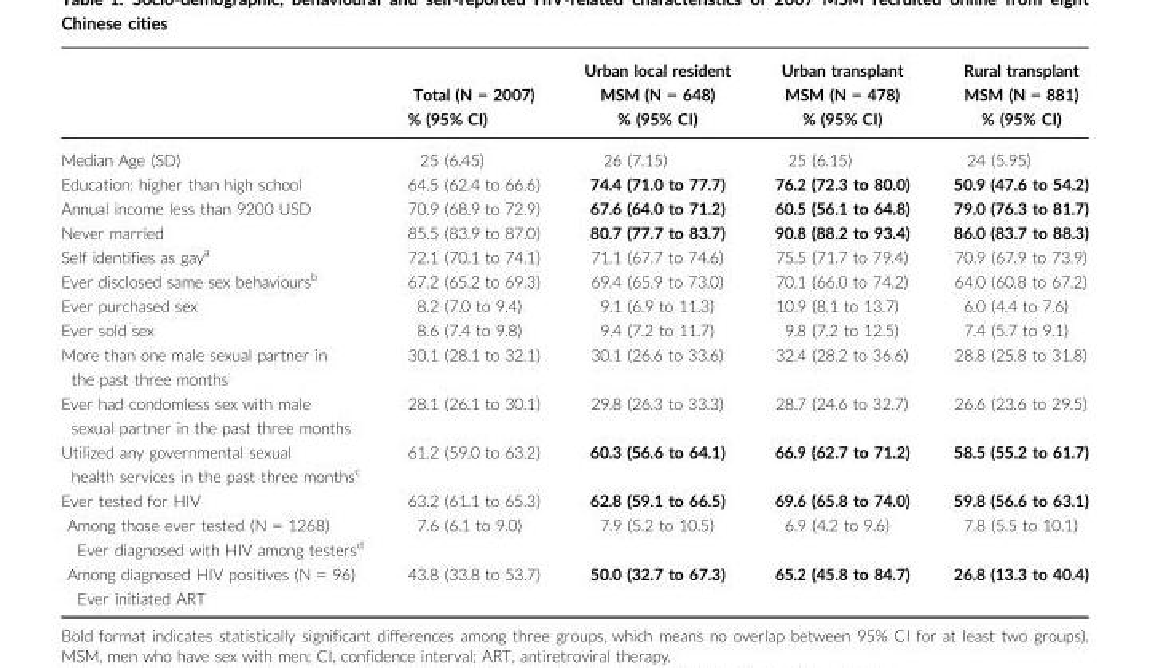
<table><thead><tr><td rowspan="2"></td><td rowspan="2">Total (N = 2007) % (95% CI)</td><td rowspan="2">Urban local resident MSM (N = 648) % (95% CI)</td><td rowspan="2">Urban transplant MSM (N = 478) % (95% CI)</td><td rowspan="2">Rural transplant MSM (N = 881) % (95% CI)</td></tr><tr></tr></thead><tbody><tr><td>Median Age (SD)</td><td>25 (6.45)</td><td>26 (7.15)</td><td>25 (6.15)</td><td>24 (5.95)</td></tr><tr><td>Education: higher than high school</td><td>64.5 (62.4 to 66.6)</td><td>74.4 (71.0 to 77.7)</td><td>76.2 (72.3 to 80.0)</td><td>50.9 (47.6 to 54.2)</td></tr><tr><td>Annual income less than 9200 USD</td><td>70.9 (68.9 to 72.9)</td><td>67.6 (64.0 to 71.2)</td><td>60.5 (56.1 to 64.8)</td><td>79.0 (76.3 to 81.7)</td></tr><tr><td>Never married</td><td>85.5 (83.9 to 87.0)</td><td>80.7 (77.7 to 83.7)</td><td>90.8 (88.2 to 93.4)</td><td>86.0 (83.7 to 88.3)</td></tr><tr><td>Self identifies as gay<sup>a</sup></td><td>72.1 (70.1 to 74.1)</td><td>71.1 (67.7 to 74.6)</td><td>75.5 (71.7 to 79.4)</td><td>70.9 (67.9 to 73.9)</td></tr><tr><td>Ever disclosed same sex behaviours<sup>b</sup></td><td>67.2 (65.2 to 69.3)</td><td>69.4 (65.9 to 73.0)</td><td>70.1 (66.0 to 74.2)</td><td>64.0 (60.8 to 67.2)</td></tr><tr><td>Ever purchased sex</td><td>8.2 (7.0 to 9.4)</td><td>9.1 (6.9 to 11.3)</td><td>10.9 (8.1 to 13.7)</td><td>6.0 (4.4 to 7.6)</td></tr><tr><td>Ever sold sex</td><td>8.6 (7.4 to 9.8)</td><td>9.4 (7.2 to 11.7)</td><td>9.8 (7.2 to 12.5)</td><td>7.4 (5.7 to 9.1)</td></tr><tr><td>More than one male sexual partner in the past three months</td><td>30.1 (28.1 to 32.1)</td><td>30.1 (26.6 to 33.6)</td><td>32.4 (28.2 to 36.6)</td><td>28.8 (25.8 to 31.8)</td></tr><tr><td>Ever had condomless sex with male sexual partner in the past three months</td><td>28.1 (26.1 to 30.1)</td><td>29.8 (26.3 to 33.3)</td><td>28.7 (24.6 to 32.7)</td><td>26.6 (23.6 to 29.5)</td></tr><tr><td>Utilized any governmental sexual health services in the past three months<sup>c</sup></td><td>61.2 (59.0 to 63.2)</td><td>60.3 (56.6 to 64.1)</td><td>66.9 (62.7 to 71.2)</td><td>58.5 (55.2 to 61.7)</td></tr><tr><td>Ever tested for HIV</td><td>63.2 (61.1 to 65.3)</td><td>62.8 (59.1 to 66.5)</td><td>69.6 (65.8 to 74.0)</td><td>59.8 (56.6 to 63.1)</td></tr><tr><td>Among those ever tested (N = 1268) Ever diagnosed with HIV among testers<sup>d</sup></td><td>7.6 (6.1 to 9.0)</td><td>7.9 (5.2 to 10.5)</td><td>6.9 (4.2 to 9.6)</td><td>7.8 (5.5 to 10.1)</td></tr><tr><td>Among diagnosed HIV positives (N = 96) Ever initiated ART</td><td>43.8 (33.8 to 53.7)</td><td>50.0 (32.7 to 67.3)</td><td>65.2 (45.8 to 84.7)</td><td>26.8 (13.3 to 40.4)</td></tr></tbody></table>